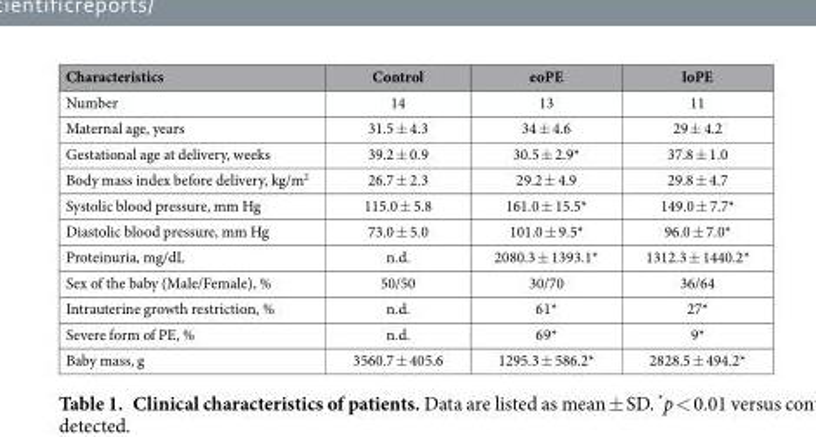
<table><thead><tr><td>Characteristics</td><td>Control</td><td>eoPE</td><td>loPE</td></tr></thead><tbody><tr><td>Number</td><td>14</td><td>13</td><td>11</td></tr><tr><td>Maternal age, years</td><td>31.5 ± 4.3</td><td>34 ± 4.6</td><td>29 ± 4.2</td></tr><tr><td>Gestational age at delivery, weeks</td><td>39.2 ± 0.9</td><td>30.5 ± 2.9*</td><td>37.8 ± 1.0</td></tr><tr><td>Body mass index before delivery, kg/m<sup>2</sup></td><td>26.7 ± 2.3</td><td>29.2 ± 4.9</td><td>29.8 ± 4.7</td></tr><tr><td>Systolic blood pressure, mm Hg</td><td>115.0 ± 5.8</td><td>161.0 ± 15.5*</td><td>149.0 ± 7.7*</td></tr><tr><td>Diastolic blood pressure, mm Hg</td><td>73.0 ± 5.0</td><td>101.0 ± 9.5*</td><td>96.0 ± 7.0*</td></tr><tr><td>Proteinuria, mg/dL</td><td>n.d.</td><td>2080.3 ± 1393.1*</td><td>1312.3 ± 1440.2*</td></tr><tr><td>Sex of the baby (Male/Female), %</td><td>50/50</td><td>30/70</td><td>36/64</td></tr><tr><td>Intrauterine growth restriction, %</td><td>n.d.</td><td>61*</td><td>27*</td></tr><tr><td>Severe form of PE, %</td><td>n.d.</td><td>69*</td><td>9*</td></tr><tr><td>Baby mass, g</td><td>3560.7 ± 405.6</td><td>1295.3 ± 586.2*</td><td>2828.5 ± 494.2*</td></tr></tbody></table>